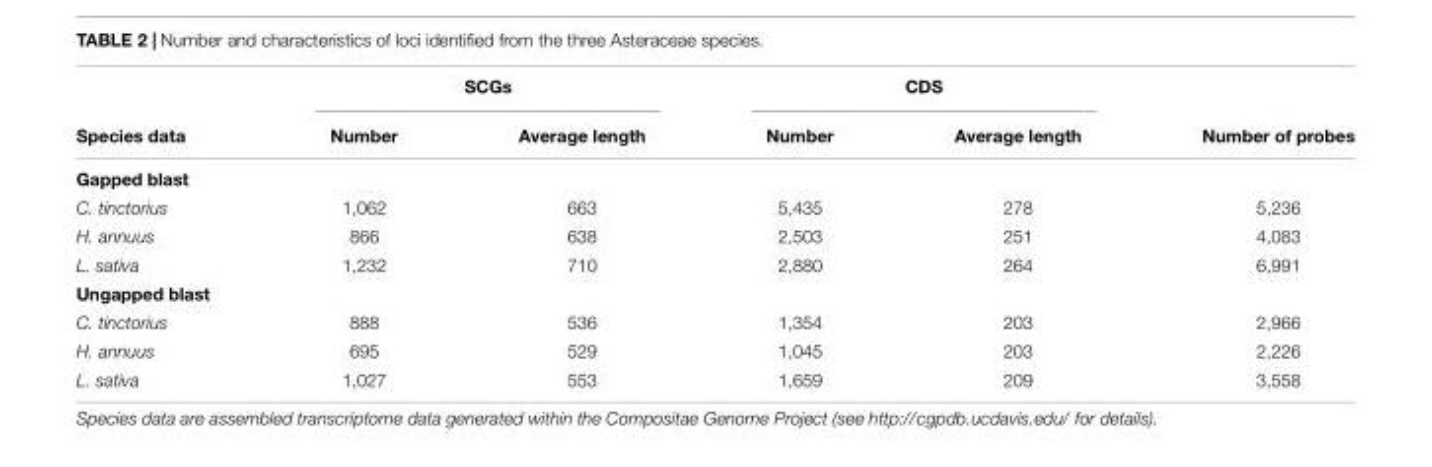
<table><thead><tr><td rowspan="2">Species data</td><td colspan="2">SCGs</td><td colspan="2">CDS</td><td rowspan="2">Number of probes</td></tr><tr><td>Number</td><td>Average length</td><td>Number</td><td>Average length</td></tr></thead><tbody><tr><td colspan="6">Gapped blast</td></tr><tr><td>C. tinctorius</td><td>1,062</td><td>663</td><td>5,435</td><td>278</td><td>5,236</td></tr><tr><td>H. annuus</td><td>866</td><td>638</td><td>2,503</td><td>251</td><td>4,083</td></tr><tr><td>L. sativa</td><td>1,232</td><td>710</td><td>2,880</td><td>264</td><td>6,991</td></tr><tr><td colspan="6">Ungapped blast</td></tr><tr><td>C. tinctorius</td><td>888</td><td>536</td><td>1,354</td><td>203</td><td>2,966</td></tr><tr><td>H. annuus</td><td>695</td><td>529</td><td>1,045</td><td>203</td><td>2,226</td></tr><tr><td>L. sativa</td><td>1,027</td><td>553</td><td>1,659</td><td>209</td><td>3,558</td></tr></tbody></table>